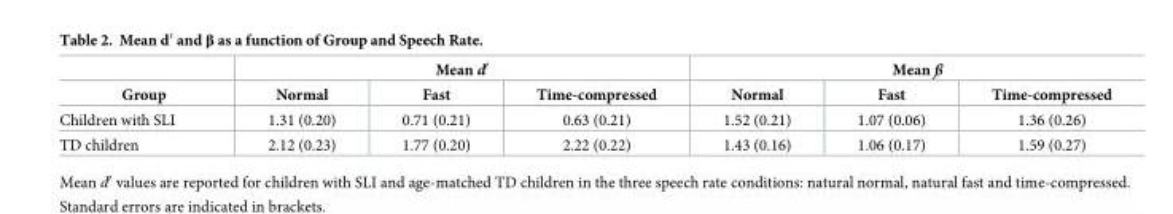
<table><thead><tr><td rowspan="2">Group</td><td colspan="3">Mean d′</td><td colspan="3">Mean ß</td></tr><tr><td>Normal</td><td>Fast</td><td>Time-compressed</td><td>Normal</td><td>Fast</td><td>Time-compressed</td></tr></thead><tbody><tr><td>Children with SLI</td><td>1.31 (0.20)</td><td>0.71 (0.21)</td><td>0.63 (0.21)</td><td>1.52 (0.21)</td><td>1.07 (0.06)</td><td>1.36 (0.26)</td></tr><tr><td>TD children</td><td>2.12 (0.23)</td><td>1.77 (0.20)</td><td>2.22 (0.22)</td><td>1.43 (0.16)</td><td>1.06 (0.17)</td><td>1.59 (0.27)</td></tr></tbody></table>